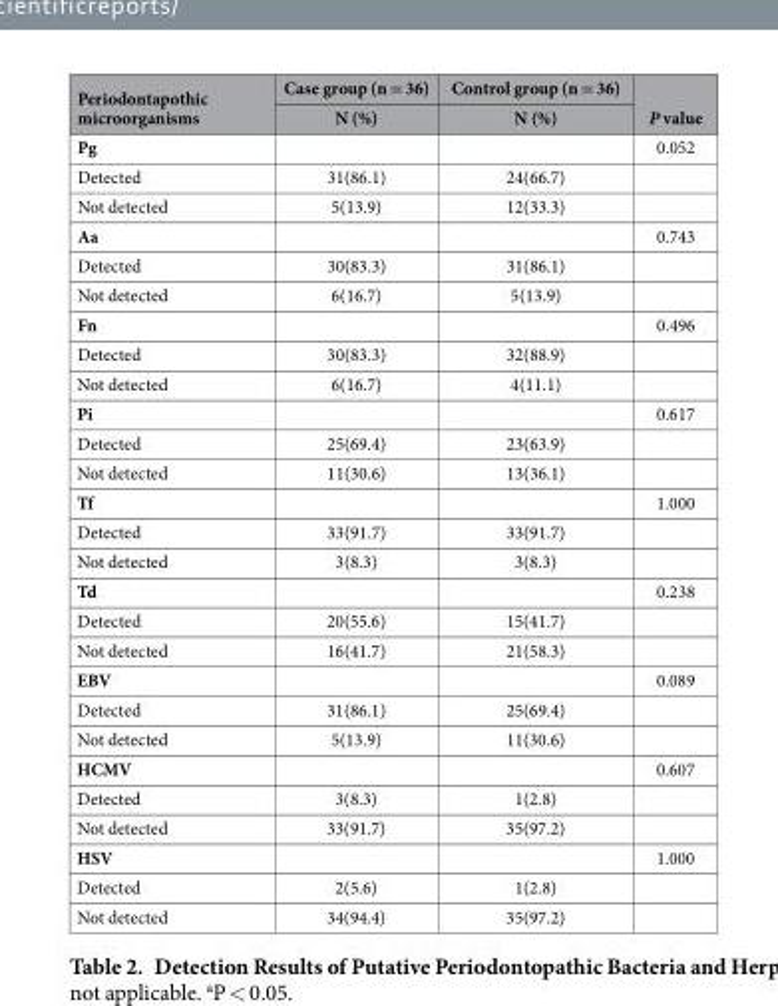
<table><thead><tr><td rowspan="2">Periodontapothic microorganisms</td><td rowspan="2">Case group (n = 36) N (%)</td><td rowspan="2">Control group (n = 36) N (%)</td><td rowspan="2">P value</td></tr><tr></tr></thead><tbody><tr><td>Pg</td><td></td><td></td><td>0.052</td></tr><tr><td>Detected</td><td>31(86.1)</td><td>24(66.7)</td><td></td></tr><tr><td>Not detected</td><td>5(13.9)</td><td>12(33.3)</td><td></td></tr><tr><td>Aa</td><td></td><td></td><td>0.743</td></tr><tr><td>Detected</td><td>30(83.3)</td><td>31(86.1)</td><td></td></tr><tr><td>Not detected</td><td>6(16.7)</td><td>5(13.9)</td><td></td></tr><tr><td>Fn</td><td></td><td></td><td>0.496</td></tr><tr><td>Detected</td><td>30(83.3)</td><td>32(88.9)</td><td></td></tr><tr><td>Not detected</td><td>6(16.7)</td><td>4(11.1)</td><td></td></tr><tr><td>Pi</td><td></td><td></td><td>0.617</td></tr><tr><td>Detected</td><td>25(69.4)</td><td>23(63.9)</td><td></td></tr><tr><td>Not detected</td><td>11(30.6)</td><td>13(36.1)</td><td></td></tr><tr><td>Tf</td><td></td><td></td><td>1.000</td></tr><tr><td>Detected</td><td>33(91.7)</td><td>33(91.7)</td><td></td></tr><tr><td>Not detected</td><td>3(8.3)</td><td>3(8.3)</td><td></td></tr><tr><td>Td</td><td></td><td></td><td>0.238</td></tr><tr><td>Detected</td><td>20(55.6)</td><td>15(41.7)</td><td></td></tr><tr><td>Not detected</td><td>16(41.7)</td><td>21(58.3)</td><td></td></tr><tr><td>EBV</td><td></td><td></td><td>0.089</td></tr><tr><td>Detected</td><td>31(86.1)</td><td>25(69.4)</td><td></td></tr><tr><td>Not detected</td><td>5(13.9)</td><td>11(30.6)</td><td></td></tr><tr><td>HCMV</td><td></td><td></td><td>0.607</td></tr><tr><td>Detected</td><td>3(8.3)</td><td>1(2.8)</td><td></td></tr><tr><td>Not detected</td><td>33(91.7)</td><td>35(97.2)</td><td></td></tr><tr><td>HSV</td><td></td><td></td><td>1.000</td></tr><tr><td>Detected</td><td>2(5.6)</td><td>1(2.8)</td><td></td></tr><tr><td>Not detected</td><td>34(94.4)</td><td>35(97.2)</td><td></td></tr></tbody></table>